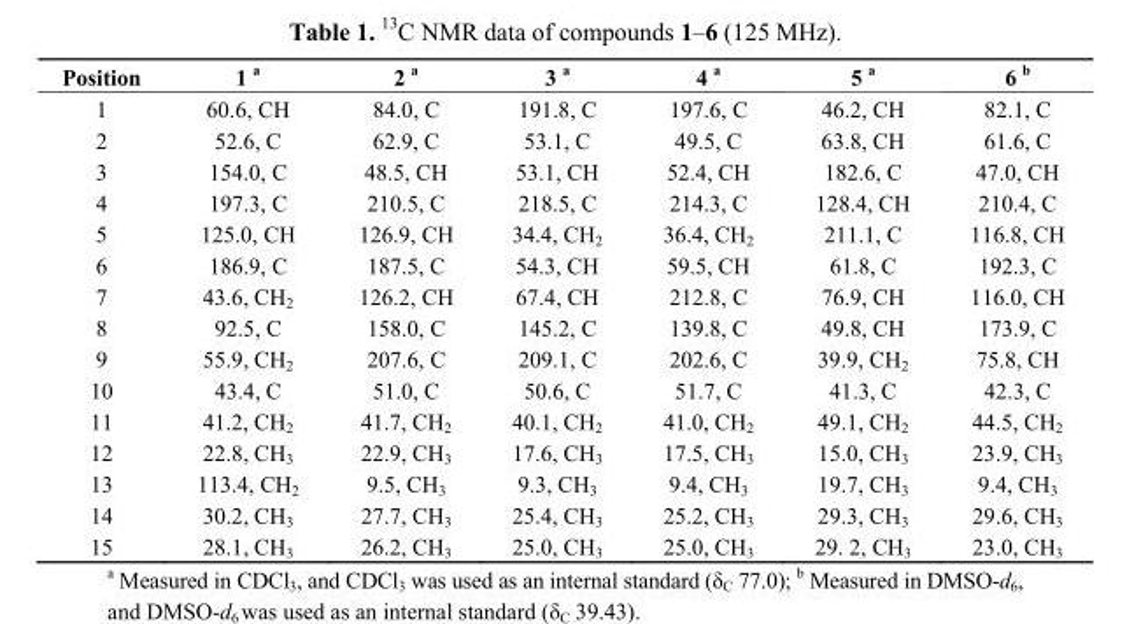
<table><thead><tr><td>Position</td><td>1 <sup>a</sup></td><td>2 <sup>a</sup></td><td>3 <sup>a</sup></td><td>4 <sup>a</sup></td><td>5 <sup>a</sup></td><td>6 <sup>b</sup></td></tr></thead><tbody><tr><td>1</td><td>60.6, CH</td><td>84.0, C</td><td>191.8, C</td><td>197.6, C</td><td>46.2, CH</td><td>82.1, C</td></tr><tr><td>2</td><td>52.6, C</td><td>62.9, C</td><td>53.1, C</td><td>49.5, C</td><td>63.8, CH</td><td>61.6, C</td></tr><tr><td>3</td><td>154.0, C</td><td>48.5, CH</td><td>53.1, CH</td><td>52.4, CH</td><td>182.6, C</td><td>47.0, CH</td></tr><tr><td>4</td><td>197.3, C</td><td>210.5, C</td><td>218.5, C</td><td>214.3, C</td><td>128.4, CH</td><td>210.4, C</td></tr><tr><td>5</td><td>125.0, CH</td><td>126.9, CH</td><td>34.4, CH<sub>2</sub></td><td>36.4, CH<sub>2</sub></td><td>211.1, C</td><td>116.8, CH</td></tr><tr><td>6</td><td>186.9, C</td><td>187.5, C</td><td>54.3, CH</td><td>59.5, CH</td><td>61.8, C</td><td>192.3, C</td></tr><tr><td>7</td><td>43.6, CH<sub>2</sub></td><td>126.2, CH</td><td>67.4, CH</td><td>212.8, C</td><td>76.9, CH</td><td>116.0, CH</td></tr><tr><td>8</td><td>92.5, C</td><td>158.0, C</td><td>145.2, C</td><td>139.8, C</td><td>49.8, CH</td><td>173.9, C</td></tr><tr><td>9</td><td>55.9, CH<sub>2</sub></td><td>207.6, C</td><td>209.1, C</td><td>202.6, C</td><td>39.9, CH<sub>2</sub></td><td>75.8, CH</td></tr><tr><td>10</td><td>43.4, C</td><td>51.0, C</td><td>50.6, C</td><td>51.7, C</td><td>41.3, C</td><td>42.3, C</td></tr><tr><td>11</td><td>41.2, CH<sub>2</sub></td><td>41.7, CH<sub>2</sub></td><td>40.1, CH<sub>2</sub></td><td>41.0, CH<sub>2</sub></td><td>49.1, CH<sub>2</sub></td><td>44.5, CH<sub>2</sub></td></tr><tr><td>12</td><td>22.8, CH<sub>3</sub></td><td>22.9, CH<sub>3</sub></td><td>17.6, CH<sub>3</sub></td><td>17.5, CH<sub>3</sub></td><td>15.0, CH<sub>3</sub></td><td>23.9, CH<sub>3</sub></td></tr><tr><td>13</td><td>113.4, CH<sub>2</sub></td><td>9.5, CH<sub>3</sub></td><td>9.3, CH<sub>3</sub></td><td>9.4, CH<sub>3</sub></td><td>19.7, CH<sub>3</sub></td><td>9.4, CH<sub>3</sub></td></tr><tr><td>14</td><td>30.2, CH<sub>3</sub></td><td>27.7, CH<sub>3</sub></td><td>25.4, CH<sub>3</sub></td><td>25.2, CH<sub>3</sub></td><td>29.3, CH<sub>3</sub></td><td>29.6, CH<sub>3</sub></td></tr><tr><td>15</td><td>28.1, CH<sub>3</sub></td><td>26.2, CH<sub>3</sub></td><td>25.0, CH<sub>3</sub></td><td>25.0, CH<sub>3</sub></td><td>29. 2, CH<sub>3</sub></td><td>23.0, CH<sub>3</sub></td></tr></tbody></table>